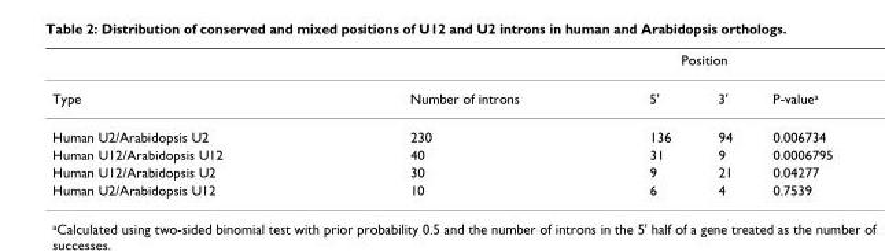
<table><thead><tr><td rowspan="2">Type</td><td rowspan="2">Number of introns</td><td colspan="2">Position</td><td rowspan="2">P-value<sup>a</sup></td></tr><tr><td>5&#x27;</td><td>3&#x27;</td></tr></thead><tbody><tr><td>Human U2/Arabidopsis U2</td><td>230</td><td>136</td><td>94</td><td>0.006734</td></tr><tr><td>Human U12/Arabidopsis U12</td><td>40</td><td>31</td><td>9</td><td>0.0006795</td></tr><tr><td>Human U12/Arabidopsis U2</td><td>30</td><td>9</td><td>21</td><td>0.04277</td></tr><tr><td>Human U2/Arabidopsis U12</td><td>10</td><td>6</td><td>4</td><td>0.7539</td></tr></tbody></table>